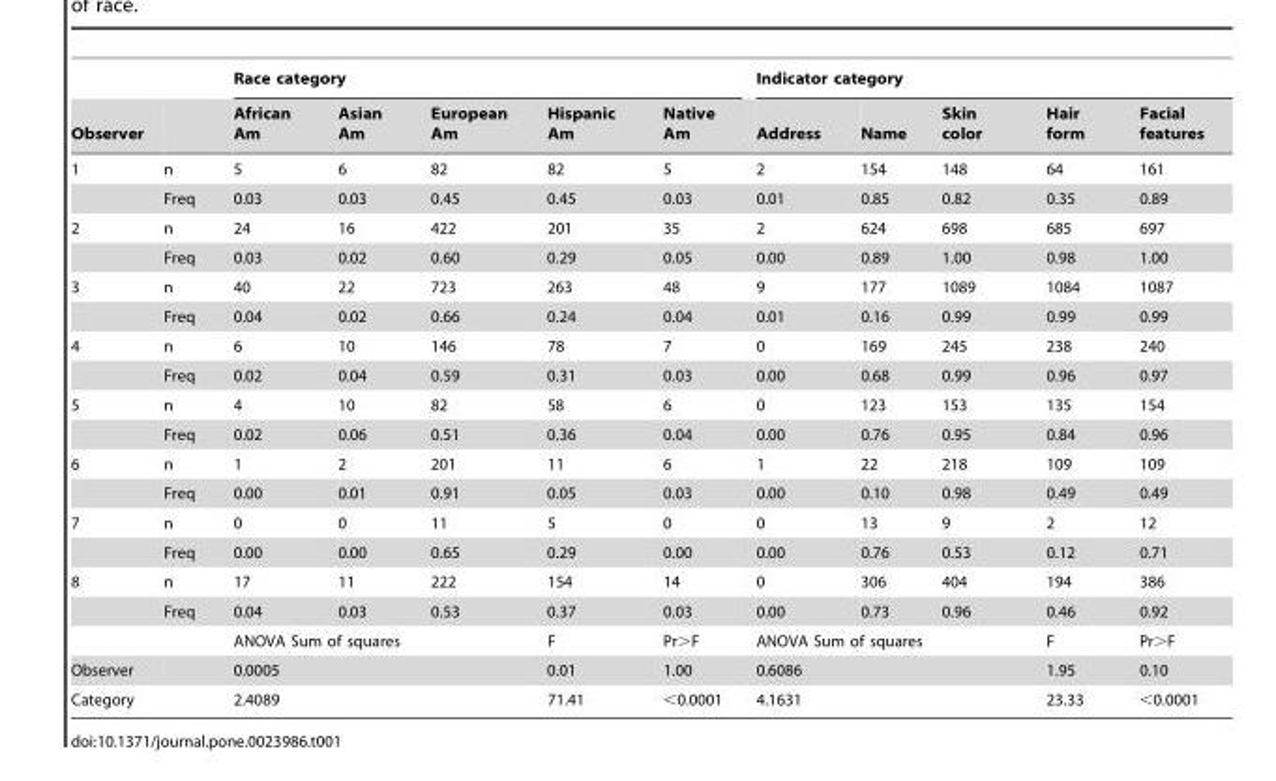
<table><thead><tr><td rowspan="2">Observer</td><td rowspan="2"></td><td colspan="5">Race category</td><td colspan="5">Indicator category</td></tr><tr><td>African Am</td><td>Asian Am</td><td>European Am</td><td>Hispanic Am</td><td>Native Am</td><td>Address</td><td>Name</td><td>Skin color</td><td>Hair form</td><td>Facial features</td></tr></thead><tbody><tr><td rowspan="2">1</td><td>n</td><td>5</td><td>6</td><td>82</td><td>82</td><td>5</td><td>2</td><td>154</td><td>148</td><td>64</td><td>161</td></tr><tr><td>Freq</td><td>0.03</td><td>0.03</td><td>0.45</td><td>0.45</td><td>0.03</td><td>0.01</td><td>0.85</td><td>0.82</td><td>0.35</td><td>0.89</td></tr><tr><td rowspan="2">2</td><td>n</td><td>24</td><td>16</td><td>422</td><td>201</td><td>35</td><td>2</td><td>624</td><td>698</td><td>685</td><td>697</td></tr><tr><td>Freq</td><td>0.03</td><td>0.02</td><td>0.60</td><td>0.29</td><td>0.05</td><td>0.00</td><td>0.89</td><td>1.00</td><td>0.98</td><td>1.00</td></tr><tr><td rowspan="2">3</td><td>n</td><td>40</td><td>22</td><td>723</td><td>263</td><td>48</td><td>9</td><td>177</td><td>1089</td><td>1084</td><td>1087</td></tr><tr><td>Freq</td><td>0.04</td><td>0.02</td><td>0.66</td><td>0.24</td><td>0.04</td><td>0.01</td><td>0.16</td><td>0.99</td><td>0.99</td><td>0.99</td></tr><tr><td rowspan="2">4</td><td>n</td><td>6</td><td>10</td><td>146</td><td>78</td><td>7</td><td>0</td><td>169</td><td>245</td><td>238</td><td>240</td></tr><tr><td>Freq</td><td>0.02</td><td>0.04</td><td>0.59</td><td>0.31</td><td>0.03</td><td>0.00</td><td>0.68</td><td>0.99</td><td>0.96</td><td>0.97</td></tr><tr><td rowspan="2">5</td><td>n</td><td>4</td><td>10</td><td>82</td><td>58</td><td>6</td><td>0</td><td>123</td><td>153</td><td>135</td><td>154</td></tr><tr><td>Freq</td><td>0.02</td><td>0.06</td><td>0.51</td><td>0.36</td><td>0.04</td><td>0.00</td><td>0.76</td><td>0.95</td><td>0.84</td><td>0.96</td></tr><tr><td rowspan="2">6</td><td>n</td><td>1</td><td>2</td><td>201</td><td>11</td><td>6</td><td>1</td><td>22</td><td>218</td><td>109</td><td>109</td></tr><tr><td>Freq</td><td>0.00</td><td>0.01</td><td>0.91</td><td>0.05</td><td>0.03</td><td>0.00</td><td>0.10</td><td>0.98</td><td>0.49</td><td>0.49</td></tr><tr><td rowspan="2">7</td><td>n</td><td>0</td><td>0</td><td>11</td><td>5</td><td>0</td><td>0</td><td>13</td><td>9</td><td>2</td><td>12</td></tr><tr><td>Freq</td><td>0.00</td><td>0.00</td><td>0.65</td><td>0.29</td><td>0.00</td><td>0.00</td><td>0.76</td><td>0.53</td><td>0.12</td><td>0.71</td></tr><tr><td rowspan="3">8</td><td>n</td><td>17</td><td>11</td><td>222</td><td>154</td><td>14</td><td>0</td><td>306</td><td>404</td><td>194</td><td>386</td></tr><tr><td>Freq</td><td>0.04</td><td>0.03</td><td>0.53</td><td>0.37</td><td>0.03</td><td>0.00</td><td>0.73</td><td>0.96</td><td>0.46</td><td>0.92</td></tr><tr><td></td><td colspan="3">ANOVA Sum of squares</td><td>F</td><td>Pr&gt;F</td><td colspan="3">ANOVA Sum of squares</td><td>F</td><td>Pr&gt;F</td></tr><tr><td>Observer</td><td></td><td colspan="3">0.0005</td><td>0.01</td><td>1.00</td><td colspan="3">0.6086</td><td>1.95</td><td>0.10</td></tr><tr><td>Category</td><td></td><td colspan="3">2.4089</td><td>71.41</td><td>&lt;0.0001</td><td colspan="3">4.1631</td><td>23.33</td><td>&lt;0.0001</td></tr></tbody></table>